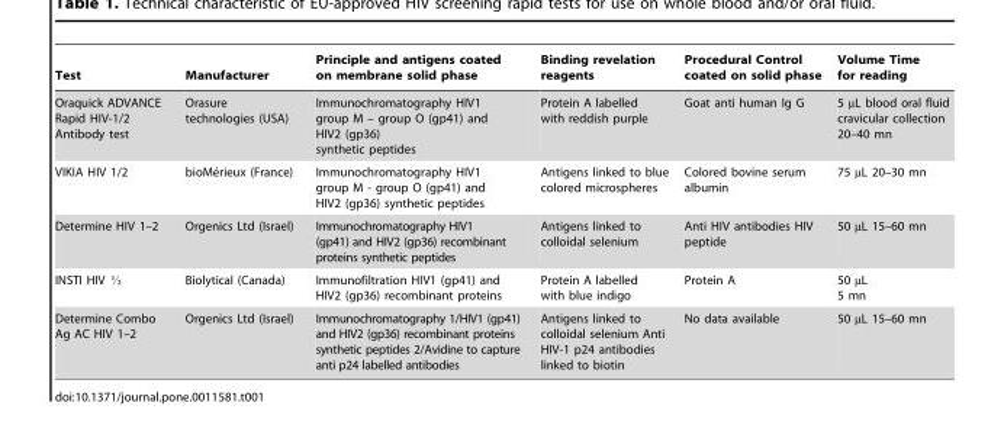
<table><thead><tr><td>Test</td><td>Manufacturer</td><td>Principle and antigens coated on membrane solid phase</td><td>Binding revelation reagents</td><td>Procedural Control coated on solid phase</td><td>Volume Time for reading</td></tr></thead><tbody><tr><td>Oraquick ADVANCE Rapid HIV-1/2 Antibody test</td><td>Orasure technologies (USA)</td><td>Immunochromatography HIV1 group M – group O (gp41) and HIV2 (gp36) synthetic peptides</td><td>Protein A labelled with reddish purple</td><td>Goat anti human Ig G</td><td>5 µL blood oral fluid cravicular collection 20–40 mn</td></tr><tr><td>VIKIA HIV 1/2</td><td>bioMe´rieux (France)</td><td>Immunochromatography HIV1 group M - group O (gp41) and HIV2 (gp36) synthetic peptides</td><td>Antigens linked to blue colored microspheres</td><td>Colored bovine serum albumin</td><td>75 µL 20–30 mn</td></tr><tr><td>Determine HIV 1–2</td><td>Orgenics Ltd (Israel)</td><td>Immunochromatography HIV1 (gp41) and HIV2 (gp36) recombinant proteins synthetic peptides</td><td>Antigens linked to colloidal selenium</td><td>Anti HIV antibodies HIV peptide</td><td>50 µL 15–60 mn</td></tr><tr><td>INSTI HIV K</td><td>Biolytical (Canada)</td><td>Immunofiltration HIV1 (gp41) and HIV2 (gp36) recombinant proteins</td><td>Protein A labelled with blue indigo</td><td>Protein A</td><td>50 µL 5 mn</td></tr><tr><td>Determine Combo Ag AC HIV 1–2</td><td>Orgenics Ltd (Israel)</td><td>Immunochromatography 1/HIV1 (gp41) and HIV2 (gp36) recombinant proteins synthetic peptides 2/Avidine to capture anti p24 labelled antibodies</td><td>Antigens linked to colloidal selenium Anti HIV-1 p24 antibodies linked to biotin</td><td>No data available</td><td>50 µL 15–60 mn</td></tr></tbody></table>